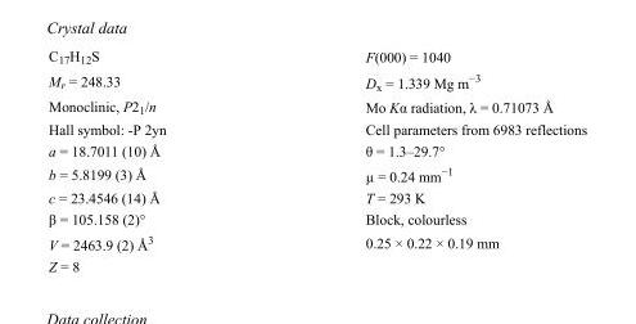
<table><tbody><tr><td>C<sub>17</sub>H<sub>12</sub>S</td><td>F(000) = 1040</td></tr><tr><td>M<sub>r</sub> = 248.33</td><td>D<sub>x</sub> = 1.339 Mg m<sup>−3</sup></td></tr><tr><td>Monoclinic, P2<sub>1</sub>/n</td><td>Mo Kα radiation, λ = 0.71073 Å</td></tr><tr><td>Hall symbol: -P 2yn</td><td>Cell parameters from 6983 reflections</td></tr><tr><td>a = 18.7011 (10) Å</td><td>θ = 1.3–29.7°</td></tr><tr><td>b = 5.8199 (3) Å</td><td>µ = 0.24 mm<sup>−1</sup></td></tr><tr><td>c = 23.4546 (14) Å</td><td>T = 293 K</td></tr><tr><td>β = 105.158 (2)°</td><td>Block, colourless</td></tr><tr><td>V = 2463.9 (2) Å<sup>3</sup></td><td>0.25 × 0.22 × 0.19 mm</td></tr><tr><td>Z = 8</td><td></td></tr></tbody></table>